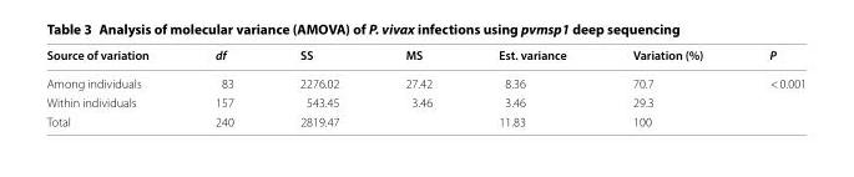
<table><thead><tr><td>Source of variation</td><td>df</td><td>SS</td><td>MS</td><td>Est. variance</td><td>Variation (%)</td><td>P</td></tr></thead><tbody><tr><td>Among individuals</td><td>83</td><td>2276.02</td><td>27.42</td><td>8.36</td><td>70.7</td><td>&lt; 0.001</td></tr><tr><td>Within individuals</td><td>157</td><td>543.45</td><td>3.46</td><td>3.46</td><td>29.3</td><td></td></tr><tr><td>Total</td><td>240</td><td>2819.47</td><td></td><td>11.83</td><td>100</td><td></td></tr></tbody></table>